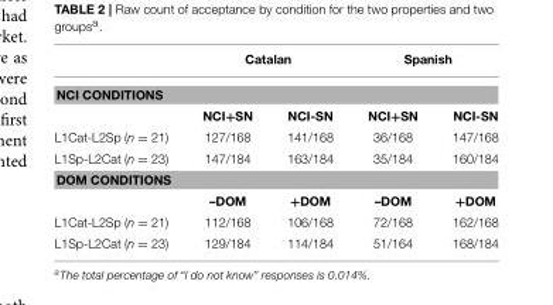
<table><thead><tr><td></td><td colspan="2">Catalan</td><td colspan="2">Spanish</td></tr><tr><td colspan="5">NCI CONDITIONS</td></tr><tr><td></td><td>NCI+SN</td><td>NCI-SN</td><td>NCI+SN</td><td>NCI-SN</td></tr></thead><tbody><tr><td>L1Cat-L2Sp (n = 21)</td><td>127/168</td><td>141/168</td><td>36/168</td><td>147/168</td></tr><tr><td>L1Sp-L2Cat (n = 23)</td><td>147/184</td><td>163/184</td><td>35/184</td><td>160/184</td></tr><tr><td colspan="5">DOM CONDITIONS</td></tr><tr><td></td><td>–DOM</td><td>+DOM</td><td>–DOM</td><td>+DOM</td></tr><tr><td>L1Cat-L2Sp (n = 21)</td><td>112/168</td><td>106/168</td><td>72/168</td><td>162/168</td></tr><tr><td>L1Sp-L2Cat (n = 23)</td><td>129/184</td><td>114/184</td><td>51/164</td><td>168/184</td></tr></tbody></table>